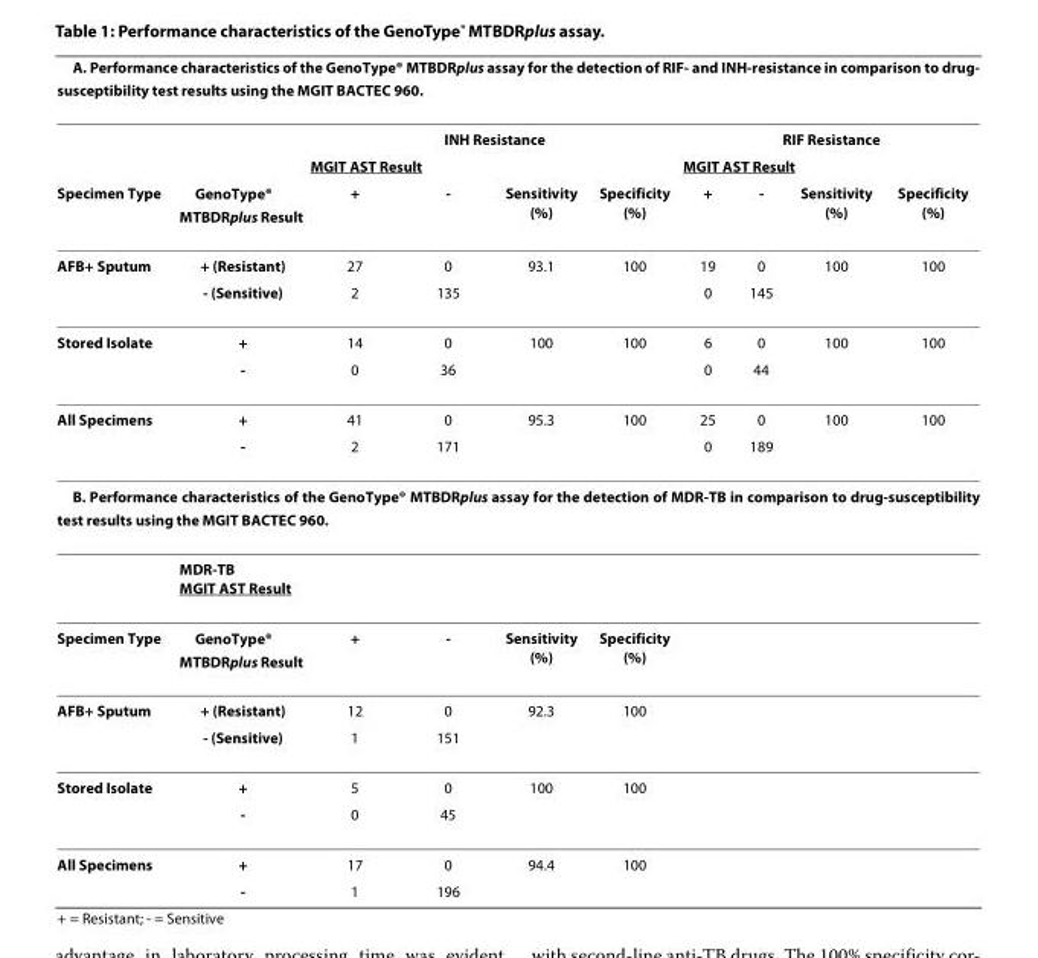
<table><tbody><tr><td colspan="10">A. Performance characteristics of the GenoType<sup>®</sup> MTBDRplus assay for the detection of RIF- and INH-resistance in comparison to drug- susceptibility test results using the MGIT BACTEC 960.</td></tr><tr><td></td><td></td><td colspan="4">INH Resistance</td><td colspan="4">RIF Resistance</td></tr><tr><td></td><td></td><td colspan="4">MGIT AST Result</td><td colspan="4">MGIT AST Result</td></tr><tr><td>Specimen Type</td><td>GenoType<sup>®</sup> MTBDRplus Result</td><td>+</td><td>-</td><td>Sensitivity (%)</td><td>Specificity (%)</td><td>+</td><td>-</td><td>Sensitivity (%)</td><td>Specificity (%)</td></tr><tr><td rowspan="2">AFB+ Sputum</td><td>+ (Resistant)</td><td>27</td><td>0</td><td>93.1</td><td>100</td><td>19</td><td>0</td><td>100</td><td>100</td></tr><tr><td>- (Sensitive)</td><td>2</td><td>135</td><td></td><td></td><td>0</td><td>145</td><td></td><td></td></tr><tr><td rowspan="2">Stored Isolate</td><td>+</td><td>14</td><td>0</td><td>100</td><td>100</td><td>6</td><td>0</td><td>100</td><td>100</td></tr><tr><td>-</td><td>0</td><td>36</td><td></td><td></td><td>0</td><td>44</td><td></td><td></td></tr><tr><td rowspan="2">All Specimens</td><td>+</td><td>41</td><td>0</td><td>95.3</td><td>100</td><td>25</td><td>0</td><td>100</td><td>100</td></tr><tr><td>-</td><td>2</td><td>171</td><td></td><td></td><td>0</td><td>189</td><td></td><td></td></tr><tr><td colspan="10">B. Performance characteristics of the GenoType<sup>®</sup> MTBDRplus assay for the detection of MDR-TB in comparison to drug-susceptibility test results using the MGIT BACTEC 960.</td></tr><tr><td></td><td>MDR-TB MGIT AST Result</td><td></td><td></td><td></td><td></td><td></td><td></td><td></td><td></td></tr><tr><td>Specimen Type</td><td>GenoType<sup>®</sup> MTBDRplus Result</td><td>+</td><td>-</td><td>Sensitivity (%)</td><td>Specificity (%)</td><td></td><td></td><td></td><td></td></tr><tr><td rowspan="2">AFB+ Sputum</td><td>+ (Resistant)</td><td>12</td><td>0</td><td>92.3</td><td>100</td><td></td><td></td><td></td><td></td></tr><tr><td>- (Sensitive)</td><td>1</td><td>151</td><td></td><td></td><td></td><td></td><td></td><td></td></tr><tr><td rowspan="2">Stored Isolate</td><td>+</td><td>5</td><td>0</td><td>100</td><td>100</td><td></td><td></td><td></td><td></td></tr><tr><td>-</td><td>0</td><td>45</td><td></td><td></td><td></td><td></td><td></td><td></td></tr><tr><td rowspan="2">All Specimens</td><td>+</td><td>17</td><td>0</td><td>94.4</td><td>100</td><td></td><td></td><td></td><td></td></tr><tr><td>-</td><td>1</td><td>196</td><td></td><td></td><td></td><td></td><td></td><td></td></tr></tbody></table>